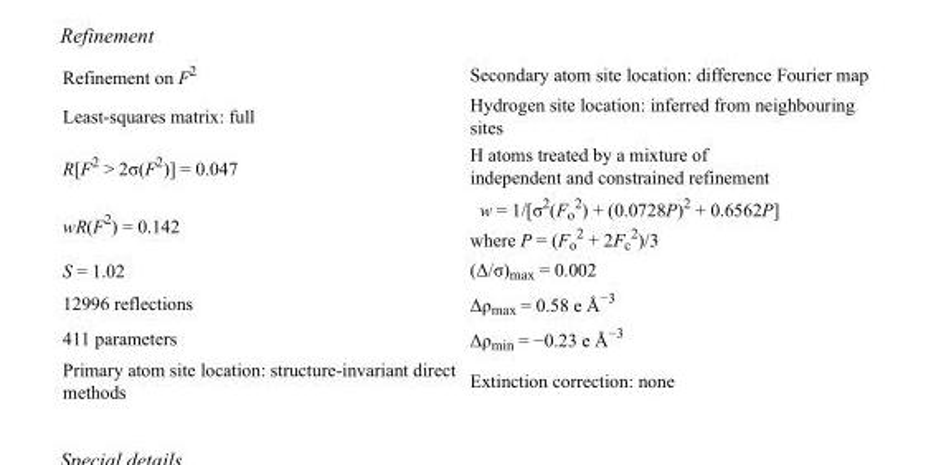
<table><tbody><tr><td>Refinement on F<sup>2</sup></td><td>Secondary atom site location: difference Fourier map</td></tr><tr><td>Least-squares matrix: full</td><td>Hydrogen site location: inferred from neighbouring sites</td></tr><tr><td>R[F<sup>2</sup> &gt; 2σ(F<sup>2</sup>)] = 0.047</td><td>H atoms treated by a mixture of independent and constrained refinement</td></tr><tr><td>wR(F<sup>2</sup>) = 0.142</td><td>w = 1/[σ<sup>2</sup>(F<sub>o</sub> <sup>2</sup>) + (0.0728P)<sup>2</sup> + 0.6562P] where P = (F<sub>o</sub> <sup>2</sup> + 2F<sub>c</sub> <sup>2</sup>)/3</td></tr><tr><td>S = 1.02</td><td>(Δ/σ)<sub>max</sub> = 0.002</td></tr><tr><td>12996 reflections</td><td>Δρ<sub>max</sub> = 0.58 e Å<sup>−3</sup></td></tr><tr><td>411 parameters</td><td>Δρ<sub>min</sub> = −0.23 e Å<sup>−3</sup></td></tr><tr><td>Primary atom site location: structure-invariant direct methods</td><td>Extinction correction: none</td></tr></tbody></table>